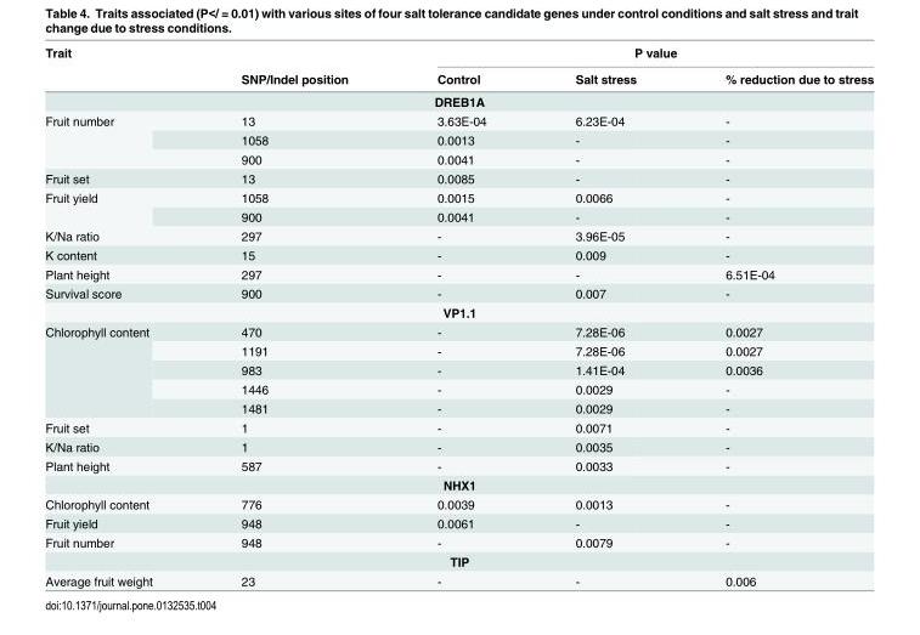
<table><thead><tr><td rowspan="2">Trait</td><td rowspan="2">SNP/Indel position</td><td colspan="3">P value</td></tr><tr><td>Control</td><td>Salt stress</td><td>% reduction due to stress</td></tr></thead><tbody><tr><td colspan="5">DREB1A</td></tr><tr><td rowspan="3">Fruit number</td><td>13</td><td>3.63E-04</td><td>6.23E-04</td><td>-</td></tr><tr><td>1058</td><td>0.0013</td><td>-</td><td>-</td></tr><tr><td>900</td><td>0.0041</td><td>-</td><td>-</td></tr><tr><td>Fruit set</td><td>13</td><td>0.0085</td><td>-</td><td>-</td></tr><tr><td rowspan="2">Fruit yield</td><td>1058</td><td>0.0015</td><td>0.0066</td><td>-</td></tr><tr><td>900</td><td>0.0041</td><td>-</td><td>-</td></tr><tr><td>K/Na ratio</td><td>297</td><td>-</td><td>3.96E-05</td><td>-</td></tr><tr><td>K content</td><td>15</td><td>-</td><td>0.009</td><td>-</td></tr><tr><td>Plant height</td><td>297</td><td>-</td><td>-</td><td>6.51E-04</td></tr><tr><td>Survival score</td><td>900</td><td>-</td><td>0.007</td><td>-</td></tr><tr><td colspan="5">VP1.1</td></tr><tr><td rowspan="5">Chlorophyll content</td><td>470</td><td>-</td><td>7.28E-06</td><td>0.0027</td></tr><tr><td>1191</td><td>-</td><td>7.28E-06</td><td>0.0027</td></tr><tr><td>983</td><td>-</td><td>1.41E-04</td><td>0.0036</td></tr><tr><td>1446</td><td>-</td><td>0.0029</td><td>-</td></tr><tr><td>1481</td><td>-</td><td>0.0029</td><td>-</td></tr><tr><td>Fruit set</td><td>1</td><td>-</td><td>0.0071</td><td>-</td></tr><tr><td>K/Na ratio</td><td>1</td><td>-</td><td>0.0035</td><td>-</td></tr><tr><td>Plant height</td><td>587</td><td>-</td><td>0.0033</td><td>-</td></tr><tr><td colspan="5">NHX1</td></tr><tr><td>Chlorophyll content</td><td>776</td><td>0.0039</td><td>0.0013</td><td>-</td></tr><tr><td>Fruit yield</td><td>948</td><td>0.0061</td><td>-</td><td>-</td></tr><tr><td>Fruit number</td><td>948</td><td>-</td><td>0.0079</td><td>-</td></tr><tr><td colspan="5">TIP</td></tr><tr><td>Average fruit weight</td><td>23</td><td>-</td><td>-</td><td>0.006</td></tr></tbody></table>